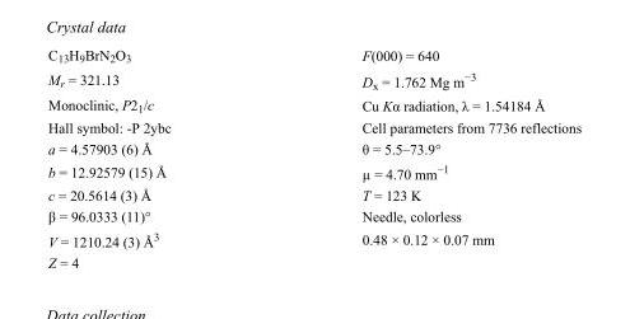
<table><tbody><tr><td>C<sub>13</sub>H<sub>9</sub>BrN<sub>2</sub>O<sub>3</sub></td><td>F(000) = 640</td></tr><tr><td>M<sub>r</sub> = 321.13</td><td>D<sub>x</sub> = 1.762 Mg m<sup>−3</sup></td></tr><tr><td>Monoclinic, P2<sub>1</sub>/c</td><td>Cu Kα radiation, λ = 1.54184 Å</td></tr><tr><td>Hall symbol: -P 2ybc</td><td>Cell parameters from 7736 reflections</td></tr><tr><td>a = 4.57903 (6) Å</td><td>θ = 5.5–73.9°</td></tr><tr><td>b = 12.92579 (15) Å</td><td>µ = 4.70 mm<sup>−1</sup></td></tr><tr><td>c = 20.5614 (3) Å</td><td>T = 123 K</td></tr><tr><td>β = 96.0333 (11)°</td><td>Needle, colorless</td></tr><tr><td>V = 1210.24 (3) Å<sup>3</sup></td><td>0.48 × 0.12 × 0.07 mm</td></tr><tr><td>Z = 4</td><td></td></tr></tbody></table>